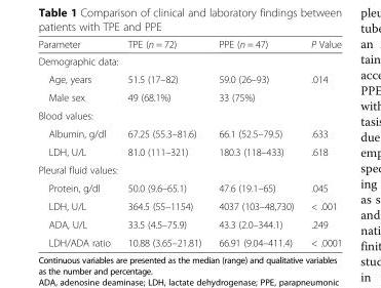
<table><thead><tr><td>Parameter</td><td>TPE (n = 72)</td><td>PPE (n = 47)</td><td>P Value</td></tr></thead><tbody><tr><td colspan="4">Demographic data:</td></tr><tr><td>Age, years</td><td>51.5 (17–82)</td><td>59.0 (26–93)</td><td>.014</td></tr><tr><td>Male sex</td><td>49 (68.1%)</td><td>33 (75%)</td><td></td></tr><tr><td colspan="4">Blood values:</td></tr><tr><td>Albumin, g/dl</td><td>67.25 (55.3–81.6)</td><td>66.1 (52.5–79.5)</td><td>.633</td></tr><tr><td>LDH, U/L</td><td>81.0 (111–321)</td><td>180.3 (118–433)</td><td>.618</td></tr><tr><td colspan="4">Pleural fluid values:</td></tr><tr><td>Protein, g/dl</td><td>50.0 (9.6–65.1)</td><td>47.6 (19.1–65)</td><td>.045</td></tr><tr><td>LDH, U/L</td><td>364.5 (55–1154)</td><td>4037 (103–48,730)</td><td>&lt; .001</td></tr><tr><td>ADA, U/L</td><td>33.5 (4.5–75.9)</td><td>43.3 (2.0–344.1)</td><td>.249</td></tr><tr><td>LDH/ADA ratio</td><td>10.88 (3.65–21.81)</td><td>66.91 (9.04–411.4)</td><td>&lt; .0001</td></tr></tbody></table>